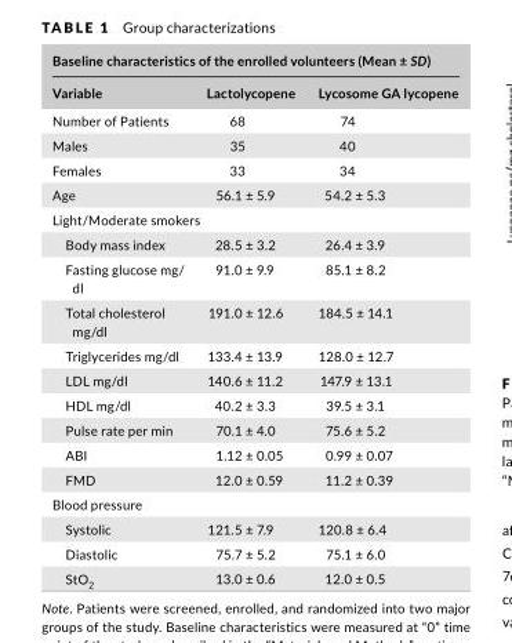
<table><thead><tr><td colspan="3">Baseline characteristics of the enrolled volunteers (Mean ± SD)</td></tr><tr><td>Variable</td><td>Lactolycopene</td><td>Lycosome GA lycopene</td></tr></thead><tbody><tr><td>Number of Patients</td><td>68</td><td>74</td></tr><tr><td>Males</td><td>35</td><td>40</td></tr><tr><td>Females</td><td>33</td><td>34</td></tr><tr><td>Age</td><td>56.1 ± 5.9</td><td>54.2 ± 5.3</td></tr><tr><td colspan="3">Light/Moderate smokers</td></tr><tr><td>Body mass index</td><td>28.5 ± 3.2</td><td>26.4 ± 3.9</td></tr><tr><td>Fasting glucose mg/ dl</td><td>91.0 ± 9.9</td><td>85.1 ± 8.2</td></tr><tr><td>Total cholesterol mg/dl</td><td>191.0 ± 12.6</td><td>184.5 ± 14.1</td></tr><tr><td>Triglycerides mg/dl</td><td>133.4 ± 13.9</td><td>128.0 ± 12.7</td></tr><tr><td>LDL mg/dl</td><td>140.6 ± 11.2</td><td>147.9 ± 13.1</td></tr><tr><td>HDL mg/dl</td><td>40.2 ± 3.3</td><td>39.5 ± 3.1</td></tr><tr><td>Pulse rate per min</td><td>70.1 ± 4.0</td><td>75.6 ± 5.2</td></tr><tr><td>ABI</td><td>1.12 ± 0.05</td><td>0.99 ± 0.07</td></tr><tr><td>FMD</td><td>12.0 ± 0.59</td><td>11.2 ± 0.39</td></tr><tr><td colspan="3">Blood pressure</td></tr><tr><td>Systolic</td><td>121.5 ± 7.9</td><td>120.8 ± 6.4</td></tr><tr><td>Diastolic</td><td>75.7 ± 5.2</td><td>75.1 ± 6.0</td></tr><tr><td>StO<sub>2</sub></td><td>13.0 ± 0.6</td><td>12.0 ± 0.5</td></tr></tbody></table>